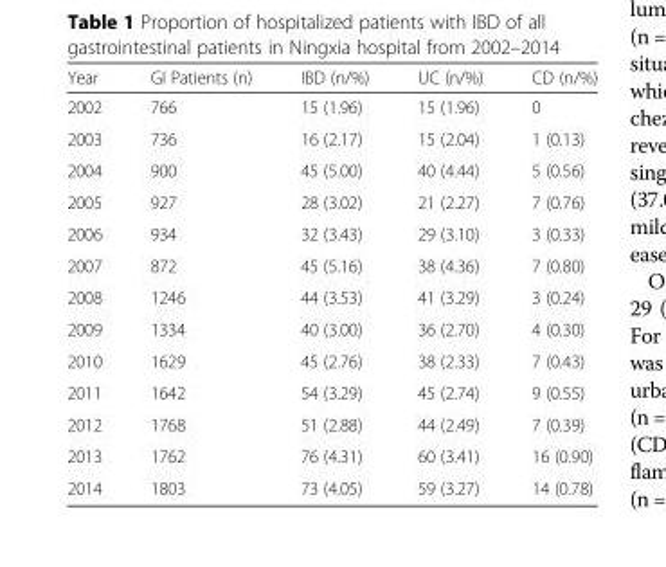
<table><thead><tr><td>Year</td><td>GI Patients (n)</td><td>IBD (n/%)</td><td>UC (n/%)</td><td>CD (n/%)</td></tr></thead><tbody><tr><td>2002</td><td>766</td><td>15 (1.96)</td><td>15 (1.96)</td><td>0</td></tr><tr><td>2003</td><td>736</td><td>16 (2.17)</td><td>15 (2.04)</td><td>1 (0.13)</td></tr><tr><td>2004</td><td>900</td><td>45 (5.00)</td><td>40 (4.44)</td><td>5 (0.56)</td></tr><tr><td>2005</td><td>927</td><td>28 (3.02)</td><td>21 (2.27)</td><td>7 (0.76)</td></tr><tr><td>2006</td><td>934</td><td>32 (3.43)</td><td>29 (3.10)</td><td>3 (0.33)</td></tr><tr><td>2007</td><td>872</td><td>45 (5.16)</td><td>38 (4.36)</td><td>7 (0.80)</td></tr><tr><td>2008</td><td>1246</td><td>44 (3.53)</td><td>41 (3.29)</td><td>3 (0.24)</td></tr><tr><td>2009</td><td>1334</td><td>40 (3.00)</td><td>36 (2.70)</td><td>4 (0.30)</td></tr><tr><td>2010</td><td>1629</td><td>45 (2.76)</td><td>38 (2.33)</td><td>7 (0.43)</td></tr><tr><td>2011</td><td>1642</td><td>54 (3.29)</td><td>45 (2.74)</td><td>9 (0.55)</td></tr><tr><td>2012</td><td>1768</td><td>51 (2.88)</td><td>44 (2.49)</td><td>7 (0.39)</td></tr><tr><td>2013</td><td>1762</td><td>76 (4.31)</td><td>60 (3.41)</td><td>16 (0.90)</td></tr><tr><td>2014</td><td>1803</td><td>73 (4.05)</td><td>59 (3.27)</td><td>14 (0.78)</td></tr></tbody></table>